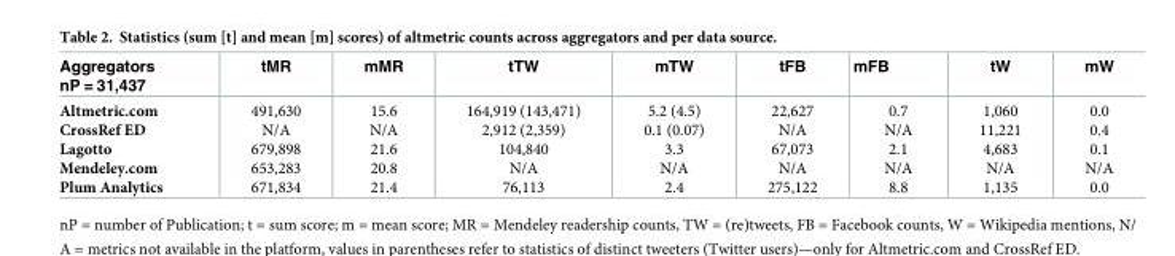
<table><thead><tr><td>Aggregators nP = 31,437</td><td>tMR</td><td>mMR</td><td>tTW</td><td>mTW</td><td>tFB</td><td>mFB</td><td>tW</td><td>mW</td></tr></thead><tbody><tr><td>Altmetric.com CrossRef ED Lagotto Mendeley.com Plum Analytics</td><td>491,630 N/A 679,898 653,283 671,834</td><td>15.6 N/A 21.6 20.8 21.4</td><td>164,919 (143,471) 2,912 (2,359) 104,840 N/A 76,113</td><td>5.2 (4.5) 0.1 (0.07) 3.3 N/A 2.4</td><td>22,627 N/A 67,073 N/A 275,122</td><td>0.7 N/A 2.1 N/A 8.8</td><td>1,060 11,221 4,683 N/A 1,135</td><td>0.0 0.4 0.1 N/A 0.0</td></tr></tbody></table>